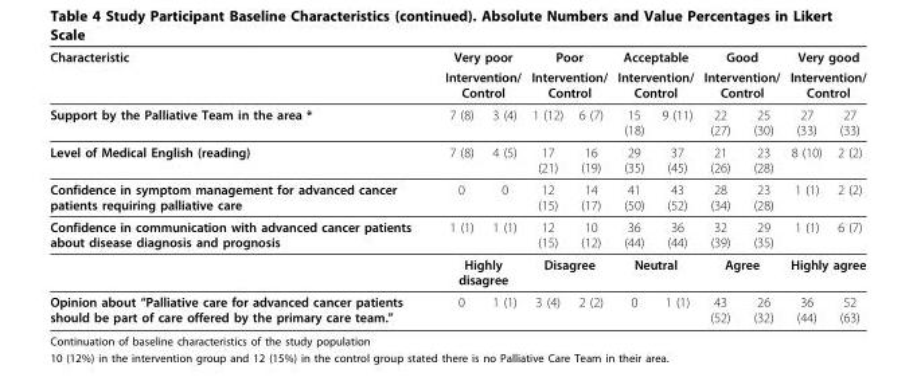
<table><thead><tr><td rowspan="3">Characteristic Support by the Palliative Team in the area *</td><td rowspan="2" colspan="2">Very poor Intervention/ Control</td><td rowspan="2" colspan="2">Poor Intervention/ Control</td><td rowspan="2" colspan="2">Acceptable Intervention/ Control</td><td rowspan="2" colspan="2">Good Intervention/ Control</td><td rowspan="2" colspan="2">Very good Intervention/ Control</td></tr><tr></tr><tr><td>7 (8)</td><td>3 (4)</td><td>1 (12)</td><td>6 (7)</td><td>15 (18)</td><td>9 (11)</td><td>22 (27)</td><td>25 (30)</td><td>27 (33)</td><td>27 (33)</td></tr></thead><tbody><tr><td>Level of Medical English (reading)</td><td>7 (8)</td><td>4 (5)</td><td>17 (21)</td><td>16 (19)</td><td>29 (35)</td><td>37 (45)</td><td>21 (26)</td><td>23 (28)</td><td>8 (10)</td><td>2 (2)</td></tr><tr><td>Confidence in symptom management for advanced cancer patients requiring palliative care</td><td>0</td><td>0</td><td>12 (15)</td><td>14 (17)</td><td>41 (50)</td><td>43 (52)</td><td>28 (34)</td><td>23 (28)</td><td>1 (1)</td><td>2 (2)</td></tr><tr><td rowspan="2">Confidence in communication with advanced cancer patients about disease diagnosis and prognosis</td><td>1 (1)</td><td>1 (1)</td><td>12 (15)</td><td>10 (12)</td><td>36 (44)</td><td>36 (44)</td><td>32 (39)</td><td>29 (35)</td><td>1 (1)</td><td>6 (7)</td></tr><tr><td colspan="2">Highly disagree</td><td colspan="2">Disagree</td><td colspan="2">Neutral</td><td colspan="2">Agree</td><td colspan="2">Highly agree</td></tr><tr><td>Opinion about “Palliative care for advanced cancer patients should be part of care offered by the primary care team.”</td><td>0</td><td>1 (1)</td><td>3 (4)</td><td>2 (2)</td><td>0</td><td>1 (1)</td><td>43 (52)</td><td>26 (32)</td><td>36 (44)</td><td>52 (63)</td></tr></tbody></table>